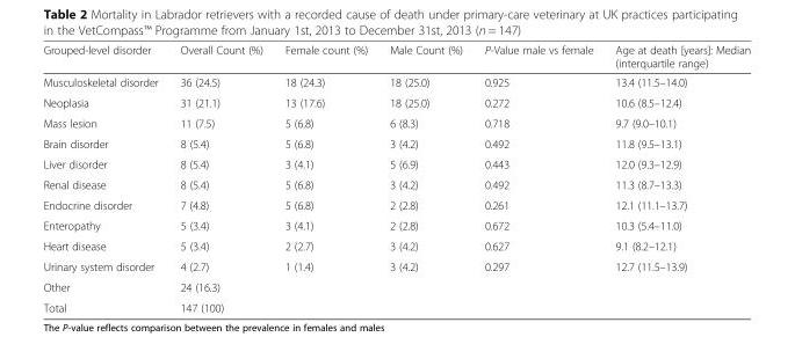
<table><thead><tr><td>Grouped-level disorder</td><td>Overall Count (%)</td><td>Female count (%)</td><td>Male Count (%)</td><td>P-Value male vs female</td><td>Age at death [years]: Median (interquartile range)</td></tr></thead><tbody><tr><td>Musculoskeletal disorder</td><td>36 (24.5)</td><td>18 (24.3)</td><td>18 (25.0)</td><td>0.925</td><td>13.4 (11.5–14.0)</td></tr><tr><td>Neoplasia</td><td>31 (21.1)</td><td>13 (17.6)</td><td>18 (25.0)</td><td>0.272</td><td>10.6 (8.5–12.4)</td></tr><tr><td>Mass lesion</td><td>11 (7.5)</td><td>5 (6.8)</td><td>6 (8.3)</td><td>0.718</td><td>9.7 (9.0–10.1)</td></tr><tr><td>Brain disorder</td><td>8 (5.4)</td><td>5 (6.8)</td><td>3 (4.2)</td><td>0.492</td><td>11.8 (9.5–13.1)</td></tr><tr><td>Liver disorder</td><td>8 (5.4)</td><td>3 (4.1)</td><td>5 (6.9)</td><td>0.443</td><td>12.0 (9.3–12.9)</td></tr><tr><td>Renal disease</td><td>8 (5.4)</td><td>5 (6.8)</td><td>3 (4.2)</td><td>0.492</td><td>11.3 (8.7–13.3)</td></tr><tr><td>Endocrine disorder</td><td>7 (4.8)</td><td>5 (6.8)</td><td>2 (2.8)</td><td>0.261</td><td>12.1 (11.1–13.7)</td></tr><tr><td>Enteropathy</td><td>5 (3.4)</td><td>3 (4.1)</td><td>2 (2.8)</td><td>0.672</td><td>10.3 (5.4–11.0)</td></tr><tr><td>Heart disease</td><td>5 (3.4)</td><td>2 (2.7)</td><td>3 (4.2)</td><td>0.627</td><td>9.1 (8.2–12.1)</td></tr><tr><td>Urinary system disorder</td><td>4 (2.7)</td><td>1 (1.4)</td><td>3 (4.2)</td><td>0.297</td><td>12.7 (11.5–13.9)</td></tr><tr><td>Other</td><td>24 (16.3)</td><td></td><td></td><td></td><td></td></tr><tr><td>Total</td><td>147 (100)</td><td></td><td></td><td></td><td></td></tr></tbody></table>